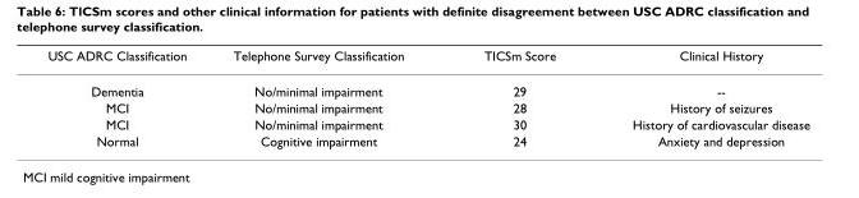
<table><thead><tr><td>USC ADRC Classification</td><td>Telephone Survey Classification</td><td>TICSm Score</td><td>Clinical History</td></tr></thead><tbody><tr><td>Dementia</td><td>No/minimal impairment</td><td>29</td><td>--</td></tr><tr><td>MCI</td><td>No/minimal impairment</td><td>28</td><td>History of seizures</td></tr><tr><td>MCI</td><td>No/minimal impairment</td><td>30</td><td>History of cardiovascular disease</td></tr><tr><td>Normal</td><td>Cognitive impairment</td><td>24</td><td>Anxiety and depression</td></tr></tbody></table>